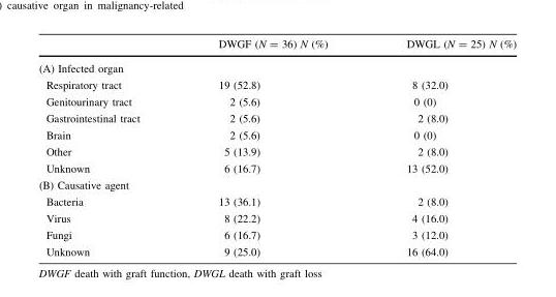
<table><thead><tr><td></td><td>DWGF (N = 36) N (%)</td><td>DWGL (N = 25) N (%)</td></tr></thead><tbody><tr><td colspan="3">(A) Infected organ</td></tr><tr><td>Respiratory tract</td><td>19 (52.8)</td><td>8 (32.0)</td></tr><tr><td>Genitourinary tract</td><td>2 (5.6)</td><td>0 (0)</td></tr><tr><td>Gastrointestinal tract</td><td>2 (5.6)</td><td>2 (8.0)</td></tr><tr><td>Brain</td><td>2 (5.6)</td><td>0 (0)</td></tr><tr><td>Other</td><td>5 (13.9)</td><td>2 (8.0)</td></tr><tr><td>Unknown</td><td>6 (16.7)</td><td>13 (52.0)</td></tr><tr><td colspan="3">(B) Causative agent</td></tr><tr><td>Bacteria</td><td>13 (36.1)</td><td>2 (8.0)</td></tr><tr><td>Virus</td><td>8 (22.2)</td><td>4 (16.0)</td></tr><tr><td>Fungi</td><td>6 (16.7)</td><td>3 (12.0)</td></tr><tr><td>Unknown</td><td>9 (25.0)</td><td>16 (64.0)</td></tr></tbody></table>